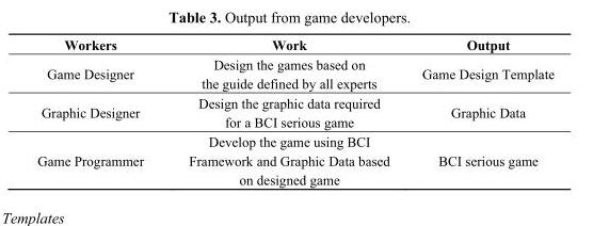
<table><thead><tr><td>Workers</td><td>Work</td><td>Output</td></tr></thead><tbody><tr><td>Game Designer</td><td>Design the games based on the guide defined by all experts</td><td>Game Design Template</td></tr><tr><td>Graphic Designer</td><td>Design the graphic data required for a BCI serious game</td><td>Graphic Data</td></tr><tr><td>Game Programmer</td><td>Develop the game using BCI Framework and Graphic Data based on designed game</td><td>BCI serious game</td></tr></tbody></table>